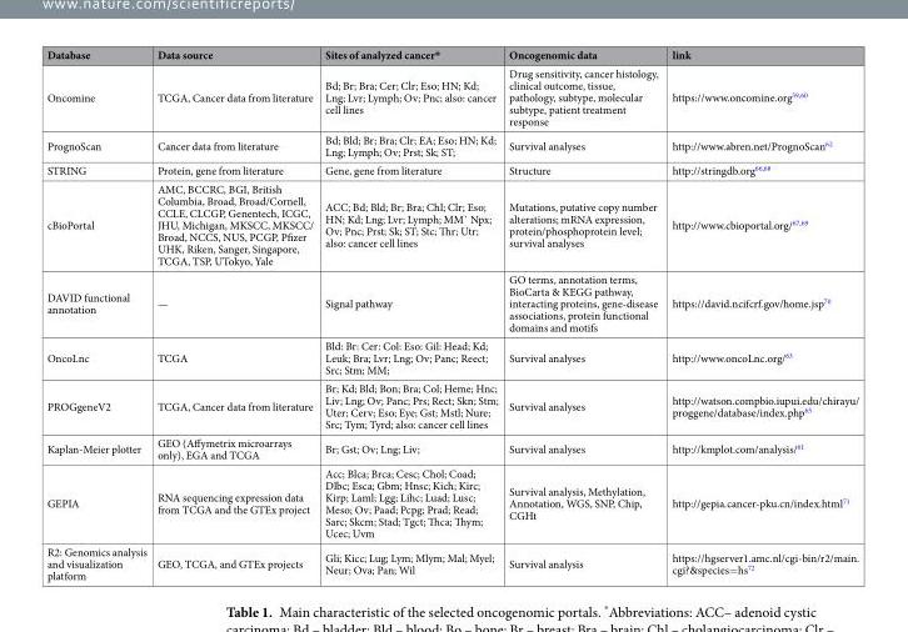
<table><thead><tr><td>Database</td><td>Data source</td><td>Sites of analyzed cancer*</td><td>Oncogenomic data</td><td>link</td></tr></thead><tbody><tr><td>Oncomine</td><td>TCGA, Cancer data from literature</td><td>Bd; Br; Bra; Cer; Clr; Eso; HN; Kd; Lng; Lvr; Lymph; Ov; Pnc; also: cancer cell lines</td><td>Drug sensitivity, cancer histology, clinical outcome, tissue, pathology, subtype, molecular subtype, patient treatment response</td><td>https://www.oncomine.org<sup>59,60</sup></td></tr><tr><td>PrognoScan</td><td>Cancer data from literature</td><td>Bd; Bld; Br; Bra; Clr; EA; Eso; HN; Kd; Lng; Lymph; Ov; Prst; Sk; ST;</td><td>Survival analyses</td><td>http://www.abren.net/PrognoScan<sup>62</sup></td></tr><tr><td>STRING</td><td>Protein, gene from literature</td><td>Gene, gene from literature</td><td>Structure</td><td>http://stringdb.org<sup>66,68</sup></td></tr><tr><td>cBioPortal</td><td>AMC, BCCRC, BGI, British Columbia, Broad, Broad/Cornell, CCLE, CLCGP, Genentech, ICGC, JHU, Michigan, MKSCC, MKSCC/ Broad, NCCS, NUS, PCGP, Pfizer UHK, Riken, Sanger, Singapore, TCGA, TSP, UTokyo, Yale</td><td>ACC; Bd; Bld; Br; Bra; Chl; Clr; Eso; HN; Kd; Lng; Lvr; Lymph; MM` Npx; Ov; Pnc; Prst; Sk; ST; Stc; Thr; Utr; also: cancer cell lines</td><td>Mutations, putative copy number alterations; mRNA expression, protein/phosphoprotein level; survival analyses</td><td>http://www.cbioportal.org/<sup>67,69</sup></td></tr><tr><td>DAVID functional annotation</td><td>—</td><td>Signal pathway</td><td>GO terms, annotation terms, BioCarta &amp; KEGG pathway, interacting proteins, gene-disease associations, protein functional domains and motifs</td><td>https://david.ncifcrf.gov/home.jsp<sup>70</sup></td></tr><tr><td>OncoLnc</td><td>TCGA</td><td>Bld: Br: Cer: Col: Eso: Gil: Head; Kd; Leuk; Bra; Lvr; Lng; Ov; Panc; Reect; Src; Stm; MM;</td><td>Survival analyses</td><td>http://www.oncoLnc.org/<sup>63</sup></td></tr><tr><td>PROGgeneV2</td><td>TCGA, Cancer data from literature</td><td>Br; Kd; Bld; Bon; Bra; Col; Heme; Hnc; Liv; Lng; Ov; Panc; Prs; Rect; Skn; Stm; Uter; Cerv; Eso; Eye; Gst; Mstl; Nure; Src; Tym; Tyrd; also: cancer cell lines</td><td>Survival analyses</td><td>http://watson.compbio.iupui.edu/chirayu/ proggene/database/index.php<sup>65</sup></td></tr><tr><td>Kaplan-Meier plotter</td><td>GEO (Affymetrix microarrays only), EGA and TCGA</td><td>Br; Gst; Ov; Lng; Liv;</td><td>Survival analyses</td><td>http://kmplot.com/analysis/<sup>61</sup></td></tr><tr><td>GEPIA</td><td>RNA sequencing expression data from TCGA and the GTEx project</td><td>Acc; Blca; Brca; Cesc; Chol; Coad; Dlbc; Esca; Gbm; Hnsc; Kich; Kirc; Kirp; Laml; Lgg; Lihc; Luad; Lusc; Meso; Ov; Paad; Pcpg; Prad; Read; Sarc; Skcm; Stad; Tgct; Thca; Thym; Ucec; Uvm</td><td>Survival analysis, Methylation, Annotation, WGS, SNP, Chip, CGHt</td><td>http://gepia.cancer-pku.cn/index.html<sup>71</sup></td></tr><tr><td>R2: Genomics analysis and visualization platform</td><td>GEO, TCGA, and GTEx projects</td><td>Gli; Kicc; Lug; Lym; Mlym; Mal; Myel; Neur; Ova; Pan; Wil</td><td>Survival analysis</td><td>https://hgserver1.amc.nl/cgi-bin/r2/main. cgi?&amp;species=hs<sup>72</sup></td></tr></tbody></table>